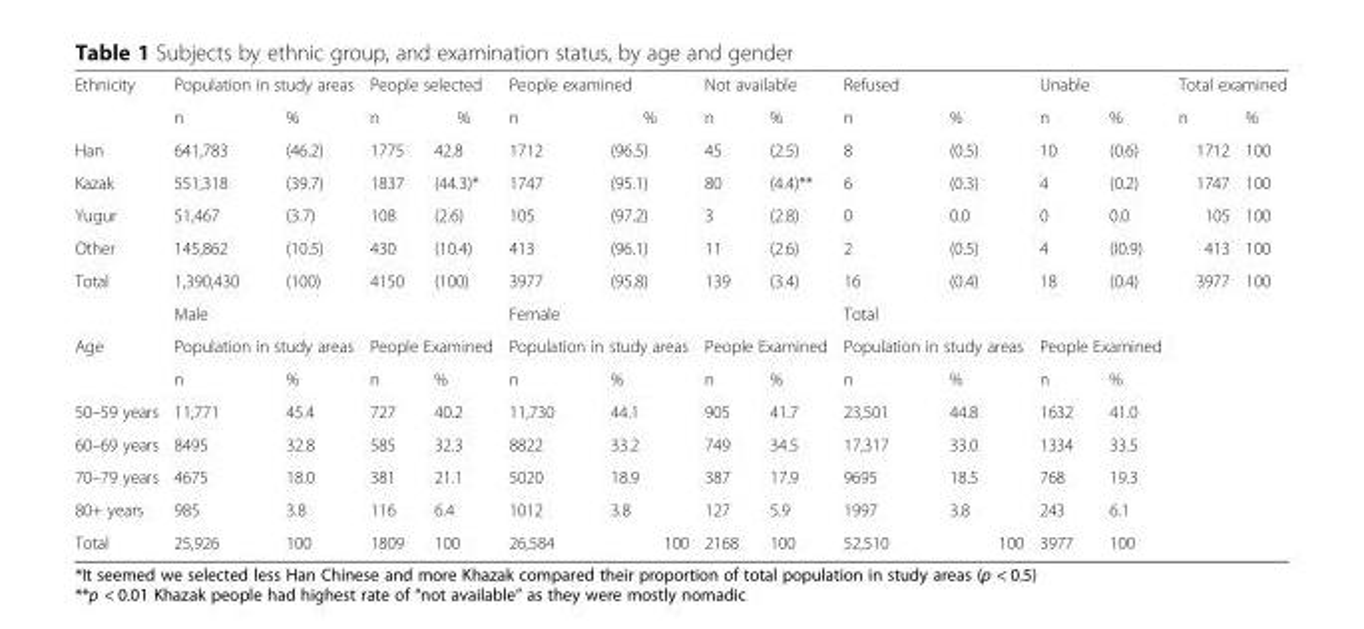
<table><tbody><tr><td rowspan="2">Ethnicity</td><td colspan="2">Population in study areas</td><td colspan="2">People selected</td><td colspan="2">People examined</td><td colspan="2">Not available</td><td colspan="2">Refused</td><td colspan="2">Unable</td><td colspan="2">Total examined</td></tr><tr><td>n</td><td>%</td><td>n</td><td>%</td><td>n</td><td>%</td><td>n</td><td>%</td><td>n</td><td>%</td><td>n</td><td>%</td><td>n</td><td>%</td></tr><tr><td>Han</td><td>641,783</td><td>(46.2)</td><td>1775</td><td>42.8</td><td>1712</td><td>(96.5)</td><td>45</td><td>(2.5)</td><td>8</td><td>(0.5)</td><td>10</td><td>(0.6)</td><td>1712</td><td>100</td></tr><tr><td>Kazak</td><td>551,318</td><td>(39.7)</td><td>1837</td><td>(44.3)*</td><td>1747</td><td>(95.1)</td><td>80</td><td>(4.4)**</td><td>6</td><td>(0.3)</td><td>4</td><td>(0.2)</td><td>1747</td><td>100</td></tr><tr><td>Yugur</td><td>51,467</td><td>(3.7)</td><td>108</td><td>(2.6)</td><td>105</td><td>(97.2)</td><td>3</td><td>(2.8)</td><td>0</td><td>0.0</td><td>0</td><td>0.0</td><td>105</td><td>100</td></tr><tr><td>Other</td><td>145,862</td><td>(10.5)</td><td>430</td><td>(10.4)</td><td>413</td><td>(96.1)</td><td>11</td><td>(2.6)</td><td>2</td><td>(0.5)</td><td>4</td><td>(I0.9)</td><td>413</td><td>100</td></tr><tr><td rowspan="2">Total</td><td>1,390,430</td><td>(100)</td><td>4150</td><td>(100)</td><td>3977</td><td>(95.8)</td><td>139</td><td>(3.4)</td><td>16</td><td>(0.4)</td><td>18</td><td>(0.4)</td><td>3977</td><td>100</td></tr><tr><td colspan="4">Male</td><td colspan="4">Female</td><td colspan="4">Total</td><td></td><td></td></tr><tr><td rowspan="2">Age</td><td colspan="2">Population in study areas</td><td colspan="2">People Examined</td><td colspan="2">Population in study areas</td><td colspan="2">People Examined</td><td colspan="2">Population in study areas</td><td colspan="2">People Examined</td><td></td><td></td></tr><tr><td>n</td><td>%</td><td>n</td><td>%</td><td>n</td><td>%</td><td>n</td><td>%</td><td>n</td><td>%</td><td>n</td><td>%</td><td></td><td></td></tr><tr><td>50–59 years</td><td>11,771</td><td>45.4</td><td>727</td><td>40.2</td><td>11,730</td><td>44.1</td><td>905</td><td>41.7</td><td>23,501</td><td>44.8</td><td>1632</td><td>41.0</td><td></td><td></td></tr><tr><td>60–69 years</td><td>8495</td><td>32.8</td><td>585</td><td>32.3</td><td>8822</td><td>33.2</td><td>749</td><td>34.5</td><td>17,317</td><td>33.0</td><td>1334</td><td>33.5</td><td></td><td></td></tr><tr><td>70–79 years</td><td>4675</td><td>18.0</td><td>381</td><td>21.1</td><td>5020</td><td>18.9</td><td>387</td><td>17.9</td><td>9695</td><td>18.5</td><td>768</td><td>19.3</td><td></td><td></td></tr><tr><td>80+ years</td><td>985</td><td>3.8</td><td>116</td><td>6.4</td><td>1012</td><td>3.8</td><td>127</td><td>5.9</td><td>1997</td><td>3.8</td><td>243</td><td>6.1</td><td></td><td></td></tr><tr><td>Total</td><td>25,926</td><td>100</td><td>1809</td><td>100</td><td>26,584</td><td>100</td><td>2168</td><td>100</td><td>52,510</td><td>100</td><td>3977</td><td>100</td><td></td><td></td></tr></tbody></table>